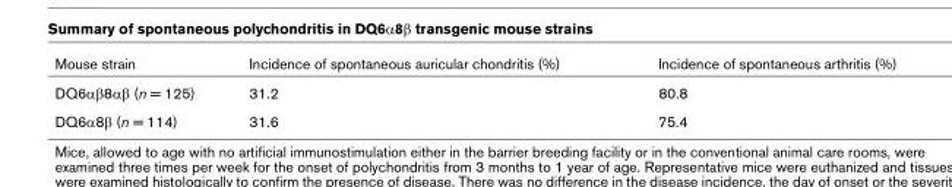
<table><thead><tr><td>Mouse strain</td><td>Incidence of spontaneous auricular chondritis (%)</td><td>Incidence of spontaneous arthritis (%)</td></tr></thead><tbody><tr><td>DQ6αβ8αβ (n = 125)</td><td>31.2</td><td>80.8</td></tr><tr><td>DQ6α8β (n = 114)</td><td>31.6</td><td>75.4</td></tr></tbody></table>